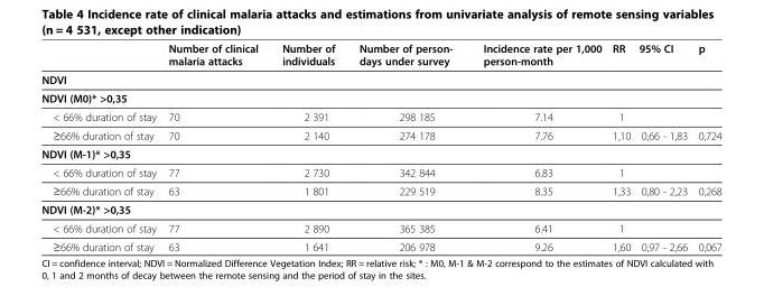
<table><thead><tr><td></td><td>Number of clinical malaria attacks</td><td>Number of individuals</td><td>Number of person- days under survey</td><td>Incidence rate per 1,000 person-month</td><td>RR</td><td>95% CI</td><td>p</td></tr></thead><tbody><tr><td colspan="8">NDVI</td></tr><tr><td colspan="8">NDVI (M0)* &gt;0,35</td></tr><tr><td>&lt; 66% duration of stay</td><td>70</td><td>2 391</td><td>298 185</td><td>7.14</td><td>1</td><td></td><td></td></tr><tr><td>≥66% duration of stay</td><td>70</td><td>2 140</td><td>274 178</td><td>7.76</td><td>1,10</td><td>0,66 - 1,83</td><td>0,724</td></tr><tr><td colspan="8">NDVI (M-1)* &gt;0,35</td></tr><tr><td>&lt; 66% duration of stay</td><td>77</td><td>2 730</td><td>342 844</td><td>6.83</td><td>1</td><td></td><td></td></tr><tr><td>≥66% duration of stay</td><td>63</td><td>1 801</td><td>229 519</td><td>8.35</td><td>1,33</td><td>0,80 - 2,23</td><td>0,268</td></tr><tr><td colspan="8">NDVI (M-2)* &gt;0,35</td></tr><tr><td>&lt; 66% duration of stay</td><td>77</td><td>2 890</td><td>365 385</td><td>6.41</td><td>1</td><td></td><td></td></tr><tr><td>≥66% duration of stay</td><td>63</td><td>1 641</td><td>206 978</td><td>9.26</td><td>1,60</td><td>0,97 - 2,66</td><td>0,067</td></tr></tbody></table>